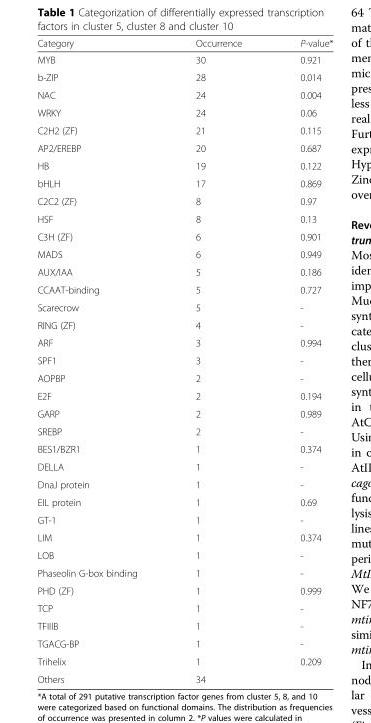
<table><thead><tr><td>Category</td><td>Occurrence</td><td>P-value*</td></tr></thead><tbody><tr><td>MYB</td><td>30</td><td>0.921</td></tr><tr><td>b-ZIP</td><td>28</td><td>0.014</td></tr><tr><td>NAC</td><td>24</td><td>0.004</td></tr><tr><td>WRKY</td><td>24</td><td>0.06</td></tr><tr><td>C2H2 (ZF)</td><td>21</td><td>0.115</td></tr><tr><td>AP2/EREBP</td><td>20</td><td>0.687</td></tr><tr><td>HB</td><td>19</td><td>0.122</td></tr><tr><td>bHLH</td><td>17</td><td>0.869</td></tr><tr><td>C2C2 (ZF)</td><td>8</td><td>0.97</td></tr><tr><td>HSF</td><td>8</td><td>0.13</td></tr><tr><td>C3H (ZF)</td><td>6</td><td>0.901</td></tr><tr><td>MADS</td><td>6</td><td>0.949</td></tr><tr><td>AUX/IAA</td><td>5</td><td>0.186</td></tr><tr><td>CCAAT-binding</td><td>5</td><td>0.727</td></tr><tr><td>Scarecrow</td><td>5</td><td>-</td></tr><tr><td>RING (ZF)</td><td>4</td><td>-</td></tr><tr><td>ARF</td><td>3</td><td>0.994</td></tr><tr><td>SPF1</td><td>3</td><td>-</td></tr><tr><td>AOPBP</td><td>2</td><td>-</td></tr><tr><td>E2F</td><td>2</td><td>0.194</td></tr><tr><td>GARP</td><td>2</td><td>0.989</td></tr><tr><td>SREBP</td><td>2</td><td>-</td></tr><tr><td>BES1/BZR1</td><td>1</td><td>0.374</td></tr><tr><td>DELLA</td><td>1</td><td>-</td></tr><tr><td>DnaJ protein</td><td>1</td><td>-</td></tr><tr><td>EIL protein</td><td>1</td><td>0.69</td></tr><tr><td>GT-1</td><td>1</td><td>-</td></tr><tr><td>LIM</td><td>1</td><td>0.374</td></tr><tr><td>LOB</td><td>1</td><td>-</td></tr><tr><td>Phaseolin G-box binding</td><td>1</td><td>-</td></tr><tr><td>PHD (ZF)</td><td>1</td><td>0.999</td></tr><tr><td>TCP</td><td>1</td><td>-</td></tr><tr><td>TFIIIB</td><td>1</td><td>-</td></tr><tr><td>TGACG-BP</td><td>1</td><td>-</td></tr><tr><td>Trihelix</td><td>1</td><td>0.209</td></tr><tr><td>Others</td><td>34</td><td></td></tr></tbody></table>